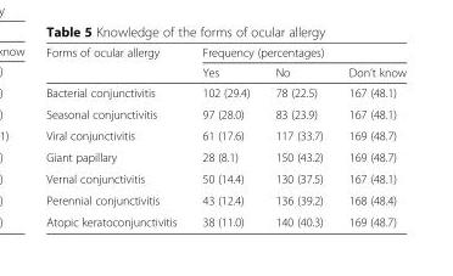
<table><thead><tr><td rowspan="2">Forms of ocular allergy</td><td colspan="3">Frequency (percentages)</td></tr><tr><td>Yes</td><td>No</td><td>Don’t know</td></tr></thead><tbody><tr><td>Bacterial conjunctivitis</td><td>102 (29.4)</td><td>78 (22.5)</td><td>167 (48.1)</td></tr><tr><td>Seasonal conjunctivitis</td><td>97 (28.0)</td><td>83 (23.9)</td><td>167 (48.1)</td></tr><tr><td>Viral conjunctivitis</td><td>61 (17.6)</td><td>117 (33.7)</td><td>169 (48.7)</td></tr><tr><td>Giant papillary</td><td>28 (8.1)</td><td>150 (43.2)</td><td>169 (48.7)</td></tr><tr><td>Vernal conjunctivitis</td><td>50 (14.4)</td><td>130 (37.5)</td><td>167 (48.1)</td></tr><tr><td>Perennial conjunctivitis</td><td>43 (12.4)</td><td>136 (39.2)</td><td>168 (48.4)</td></tr><tr><td>Atopic keratoconjunctivitis</td><td>38 (11.0)</td><td>140 (40.3)</td><td>169 (48.7)</td></tr></tbody></table>